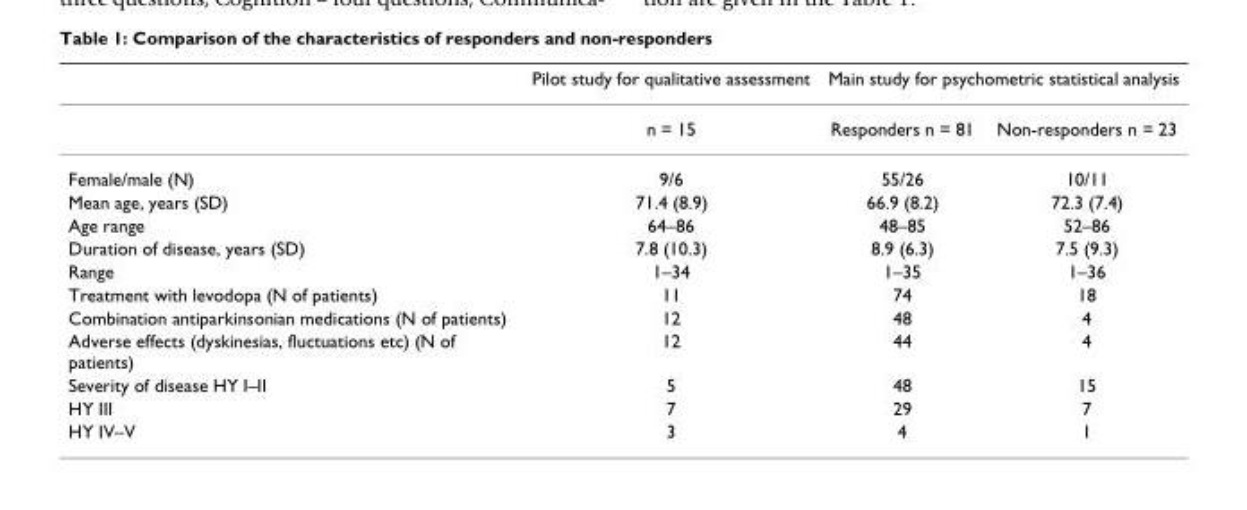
<table><thead><tr><td rowspan="2"></td><td rowspan="2">Pilot study for qualitative assessment n = 15</td><td colspan="2">Main study for psychometric statistical analysis</td></tr><tr><td>Responders n = 81</td><td>Non-responders n = 23</td></tr></thead><tbody><tr><td>Female/male (N)</td><td>9/6</td><td>55/26</td><td>10/11</td></tr><tr><td>Mean age, years (SD)</td><td>71.4 (8.9)</td><td>66.9 (8.2)</td><td>72.3 (7.4)</td></tr><tr><td>Age range</td><td>64–86</td><td>48–85</td><td>52–86</td></tr><tr><td>Duration of disease, years (SD)</td><td>7.8 (10.3)</td><td>8.9 (6.3)</td><td>7.5 (9.3)</td></tr><tr><td>Range</td><td>1–34</td><td>1–35</td><td>1–36</td></tr><tr><td>Treatment with levodopa (N of patients)</td><td>11</td><td>74</td><td>18</td></tr><tr><td>Combination antiparkinsonian medications (N of patients)</td><td>12</td><td>48</td><td>4</td></tr><tr><td>Adverse effects (dyskinesias, fluctuations etc) (N of patients)</td><td>12</td><td>44</td><td>4</td></tr><tr><td>Severity of disease HY I–II</td><td>5</td><td>48</td><td>15</td></tr><tr><td>HY III</td><td>7</td><td>29</td><td>7</td></tr><tr><td>HY IV–V</td><td>3</td><td>4</td><td>1</td></tr></tbody></table>